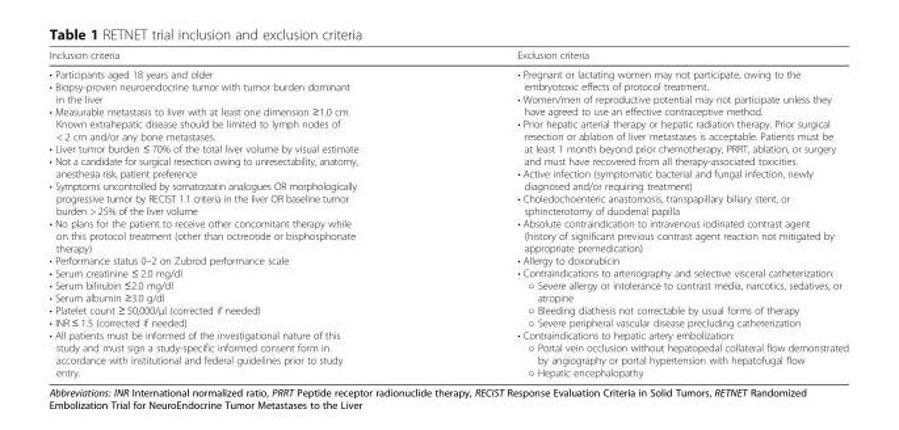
<table><thead><tr><td>Inclusion criteria</td><td>Exclusion criteria</td></tr></thead><tbody><tr><td>• Participants aged 18 years and older • Biopsy-proven neuroendocrine tumor with tumor burden dominant in the liver • Measurable metastasis to liver with at least one dimension ≥1.0 cm. Known extrahepatic disease should be limited to lymph nodes of &lt; 2 cm and/or any bone metastases. • Liver tumor burden ≤ 70% of the total liver volume by visual estimate • Not a candidate for surgical resection owing to unresectability, anatomy, anesthesia risk, patient preference • Symptoms uncontrolled by somatostatin analogues OR morphologically progressive tumor by RECIST 1.1 criteria in the liver OR baseline tumor burden &gt; 25% of the liver volume • No plans for the patient to receive other concomitant therapy while on this protocol treatment (other than octreotide or bisphosphonate therapy) • Performance status 0–2 on Zubrod performance scale • Serum creatinine ≤ 2.0 mg/dl • Serum bilirubin ≤2.0 mg/dl • Serum albumin ≥3.0 g/dl • Platelet count ≥ 50,000/μl (corrected if needed) • INR ≤ 1.5 (corrected if needed) • All patients must be informed of the investigational nature of this study and must sign a study-specific informed consent form in accordance with institutional and federal guidelines prior to study entry.</td><td>• Pregnant or lactating women may not participate, owing to the embryotoxic effects of protocol treatment. • Women/men of reproductive potential may not participate unless they have agreed to use an effective contraceptive method. • Prior hepatic arterial therapy or hepatic radiation therapy. Prior surgical resection or ablation of liver metastases is acceptable. Patients must be at least 1 month beyond prior chemotherapy, PRRT, ablation, or surgery and must have recovered from all therapy-associated toxicities. • Active infection (symptomatic bacterial and fungal infection, newly diagnosed and/or requiring treatment) • Choledochoenteric anastomosis, transpapillary biliary stent, or sphincterotomy of duodenal papilla • Absolute contraindication to intravenous iodinated contrast agent (history of significant previous contrast agent reaction not mitigated by appropriate premedication) • Allergy to doxorubicin • Contraindications to arteriography and selective visceral catheterization: ○ Severe allergy or intolerance to contrast media, narcotics, sedatives, or atropine ○ Bleeding diathesis not correctable by usual forms of therapy ○ Severe peripheral vascular disease precluding catheterization • Contraindications to hepatic artery embolization: ○ Portal vein occlusion without hepatopedal collateral flow demonstrated by angiography or portal hypertension with hepatofugal flow ○ Hepatic encephalopathy</td></tr></tbody></table>